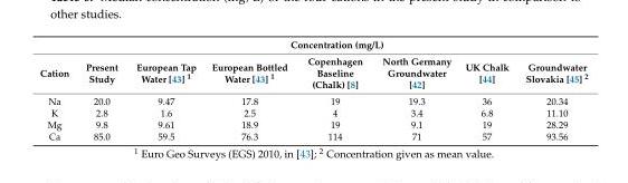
<table><thead><tr><td rowspan="2">Cation</td><td colspan="7">Concentration (mg/L)</td></tr><tr><td>Present Study</td><td>European Tap Water [43] <sup>1</sup></td><td>European Bottled Water [43] <sup>1</sup></td><td>Copenhagen Baseline (Chalk) [8]</td><td>North Germany Groundwater [42]</td><td>UK Chalk [44]</td><td>Groundwater Slovakia [45] <sup>2</sup></td></tr></thead><tbody><tr><td>Na</td><td>20.0</td><td>9.47</td><td>17.8</td><td>19</td><td>19.3</td><td>36</td><td>20.34</td></tr><tr><td>K</td><td>2.8</td><td>1.6</td><td>2.5</td><td>4</td><td>3.4</td><td>6.8</td><td>11.10</td></tr><tr><td>Mg</td><td>9.8</td><td>9.61</td><td>18.9</td><td>19</td><td>9.1</td><td>19</td><td>28.29</td></tr><tr><td>Ca</td><td>85.0</td><td>59.5</td><td>76.3</td><td>114</td><td>71</td><td>57</td><td>93.56</td></tr></tbody></table>